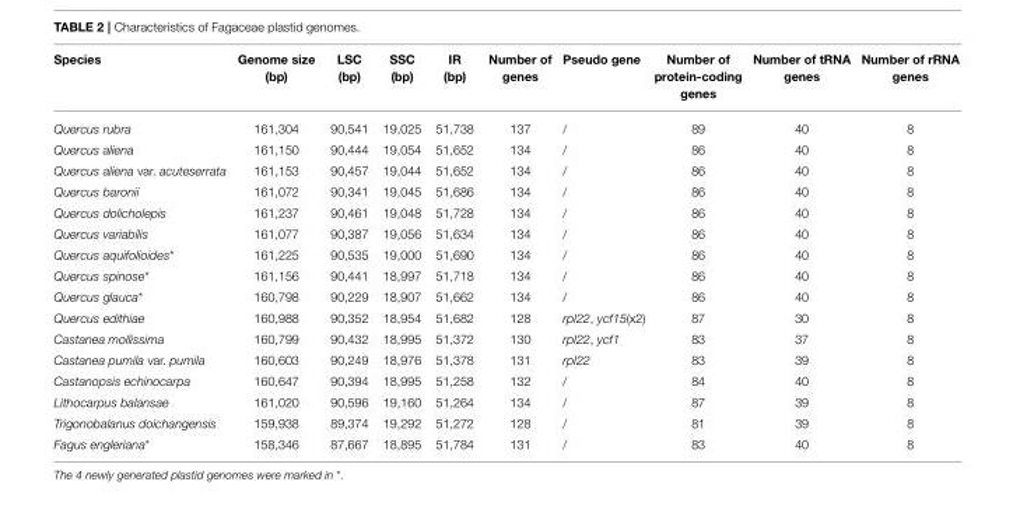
<table><thead><tr><td>Species</td><td>Genome size (bp)</td><td>LSC (bp)</td><td>SSC (bp)</td><td>IR (bp)</td><td>Number of genes</td><td>Pseudo gene</td><td>Number of protein-coding genes</td><td>Number of tRNA genes</td><td>Number of rRNA genes</td></tr></thead><tbody><tr><td>Quercus rubra</td><td>161,304</td><td>90,541</td><td>19,025</td><td>51,738</td><td>137</td><td>/</td><td>89</td><td>40</td><td>8</td></tr><tr><td>Quercus aliena</td><td>161,150</td><td>90,444</td><td>19,054</td><td>51,652</td><td>134</td><td>/</td><td>86</td><td>40</td><td>8</td></tr><tr><td>Quercus aliena var. acuteserrata</td><td>161,153</td><td>90,457</td><td>19,044</td><td>51,652</td><td>134</td><td>/</td><td>86</td><td>40</td><td>8</td></tr><tr><td>Quercus baronii</td><td>161,072</td><td>90,341</td><td>19,045</td><td>51,686</td><td>134</td><td>/</td><td>86</td><td>40</td><td>8</td></tr><tr><td>Quercus dolicholepis</td><td>161,237</td><td>90,461</td><td>19,048</td><td>51,728</td><td>134</td><td>/</td><td>86</td><td>40</td><td>8</td></tr><tr><td>Quercus variabilis</td><td>161,077</td><td>90,387</td><td>19,056</td><td>51,634</td><td>134</td><td>/</td><td>86</td><td>40</td><td>8</td></tr><tr><td>Quercus aquifolioides*</td><td>161,225</td><td>90,535</td><td>19,000</td><td>51,690</td><td>134</td><td>/</td><td>86</td><td>40</td><td>8</td></tr><tr><td>Quercus spinose*</td><td>161,156</td><td>90,441</td><td>18,997</td><td>51,718</td><td>134</td><td>/</td><td>86</td><td>40</td><td>8</td></tr><tr><td>Quercus glauca*</td><td>160,798</td><td>90,229</td><td>18,907</td><td>51,662</td><td>134</td><td>/</td><td>86</td><td>40</td><td>8</td></tr><tr><td>Quercus edithiae</td><td>160,988</td><td>90,352</td><td>18,954</td><td>51,682</td><td>128</td><td>rpl22, ycf15(x2)</td><td>87</td><td>30</td><td>8</td></tr><tr><td>Castanea mollissima</td><td>160,799</td><td>90,432</td><td>18,995</td><td>51,372</td><td>130</td><td>rpl22, ycf1</td><td>83</td><td>37</td><td>8</td></tr><tr><td>Castanea pumila var. pumila</td><td>160,603</td><td>90,249</td><td>18,976</td><td>51,378</td><td>131</td><td>rpl22</td><td>83</td><td>39</td><td>8</td></tr><tr><td>Castanopsis echinocarpa</td><td>160,647</td><td>90,394</td><td>18,995</td><td>51,258</td><td>132</td><td>/</td><td>84</td><td>40</td><td>8</td></tr><tr><td>Lithocarpus balansae</td><td>161,020</td><td>90,596</td><td>19,160</td><td>51,264</td><td>134</td><td>/</td><td>87</td><td>39</td><td>8</td></tr><tr><td>Trigonobalanus doichangensis</td><td>159,938</td><td>89,374</td><td>19,292</td><td>51,272</td><td>128</td><td>/</td><td>81</td><td>39</td><td>8</td></tr><tr><td>Fagus engleriana*</td><td>158,346</td><td>87,667</td><td>18,895</td><td>51,784</td><td>131</td><td>/</td><td>83</td><td>40</td><td>8</td></tr></tbody></table>